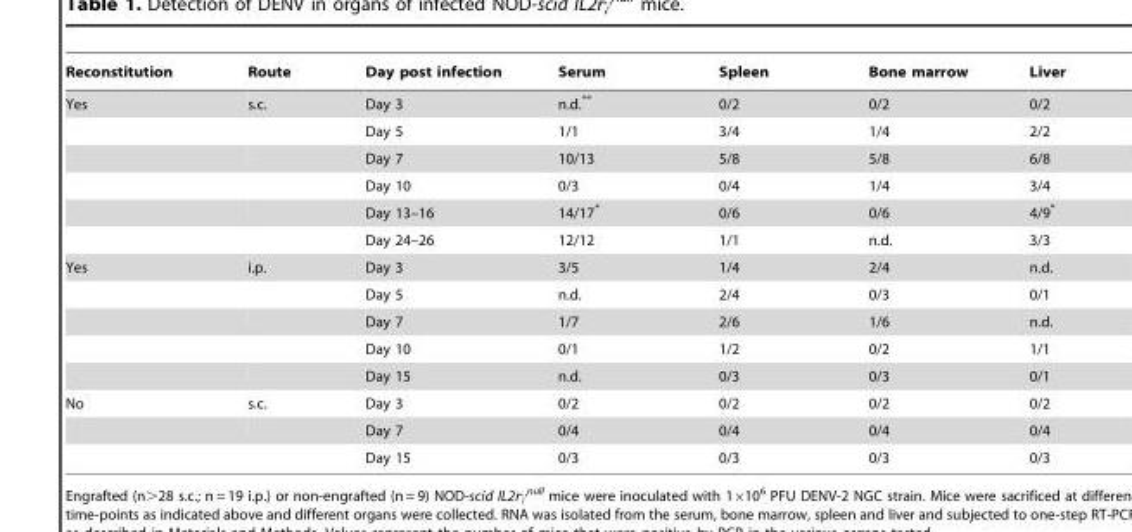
<table><thead><tr><td>Reconstitution</td><td>Route</td><td>Day post infection</td><td>Serum</td><td>Spleen</td><td>Bone marrow</td><td>Liver</td></tr></thead><tbody><tr><td rowspan="6">Yes</td><td>s.c.</td><td>Day 3</td><td>n.d.**</td><td>0/2</td><td>0/2</td><td>0/2</td></tr><tr><td></td><td>Day 5</td><td>1/1</td><td>3/4</td><td>1/4</td><td>2/2</td></tr><tr><td></td><td>Day 7</td><td>10/13</td><td>5/8</td><td>5/8</td><td>6/8</td></tr><tr><td></td><td>Day 10</td><td>0/3</td><td>0/4</td><td>1/4</td><td>3/4</td></tr><tr><td></td><td>Day 13–16</td><td>14/17*</td><td>0/6</td><td>0/6</td><td>4/9*</td></tr><tr><td></td><td>Day 24–26</td><td>12/12</td><td>1/1</td><td>n.d.</td><td>3/3</td></tr><tr><td rowspan="5">Yes</td><td>i.p.</td><td>Day 3</td><td>3/5</td><td>1/4</td><td>2/4</td><td>n.d.</td></tr><tr><td></td><td>Day 5</td><td>n.d.</td><td>2/4</td><td>0/3</td><td>0/1</td></tr><tr><td></td><td>Day 7</td><td>1/7</td><td>2/6</td><td>1/6</td><td>n.d.</td></tr><tr><td></td><td>Day 10</td><td>0/1</td><td>1/2</td><td>0/2</td><td>1/1</td></tr><tr><td></td><td>Day 15</td><td>n.d.</td><td>0/3</td><td>0/3</td><td>0/1</td></tr><tr><td rowspan="3">No</td><td>s.c.</td><td>Day 3</td><td>0/2</td><td>0/2</td><td>0/2</td><td>0/2</td></tr><tr><td></td><td>Day 7</td><td>0/4</td><td>0/4</td><td>0/4</td><td>0/4</td></tr><tr><td></td><td>Day 15</td><td>0/3</td><td>0/3</td><td>0/3</td><td>0/3</td></tr></tbody></table>